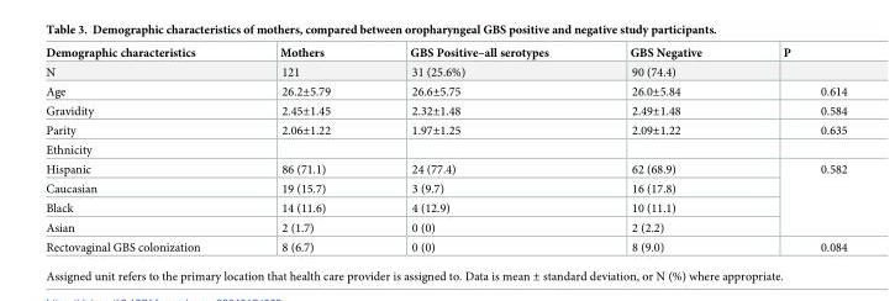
<table><thead><tr><td>Demographic characteristics</td><td>Mothers</td><td>GBS Positive–all serotypes</td><td>GBS Negative</td><td>P</td></tr></thead><tbody><tr><td>N</td><td>121</td><td>31 (25.6%)</td><td>90 (74.4)</td><td></td></tr><tr><td>Age</td><td>26.2±5.79</td><td>26.6±5.75</td><td>26.0±5.84</td><td>0.614</td></tr><tr><td>Gravidity</td><td>2.45±1.45</td><td>2.32±1.48</td><td>2.49±1.48</td><td>0.584</td></tr><tr><td>Parity</td><td>2.06±1.22</td><td>1.97±1.25</td><td>2.09±1.22</td><td>0.635</td></tr><tr><td colspan="5">Ethnicity</td></tr><tr><td>Hispanic</td><td>86 (71.1)</td><td>24 (77.4)</td><td>62 (68.9)</td><td rowspan="4">0.582</td></tr><tr><td>Caucasian</td><td>19 (15.7)</td><td>3 (9.7)</td><td>16 (17.8)</td></tr><tr><td>Black</td><td>14 (11.6)</td><td>4 (12.9)</td><td>10 (11.1)</td></tr><tr><td>Asian</td><td>2 (1.7)</td><td>0 (0)</td><td>2 (2.2)</td></tr><tr><td>Rectovaginal GBS colonization</td><td>8 (6.7)</td><td>0 (0)</td><td>8 (9.0)</td><td>0.084</td></tr></tbody></table>